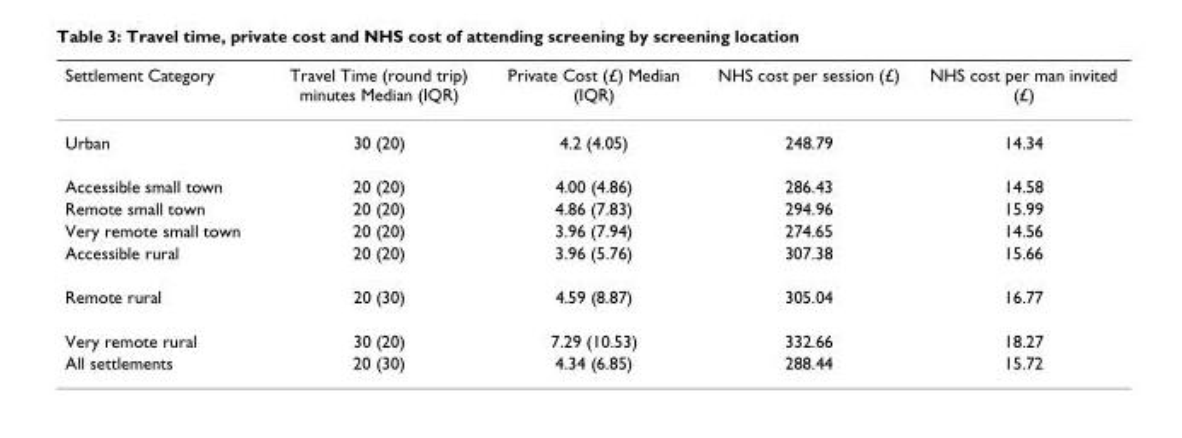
<table><thead><tr><td>Settlement Category</td><td>Travel Time (round trip) minutes Median (IQR)</td><td>Private Cost (£) Median (IQR)</td><td>NHS cost per session (£)</td><td>NHS cost per man invited (£)</td></tr></thead><tbody><tr><td>Urban</td><td>30 (20)</td><td>4.2 (4.05)</td><td>248.79</td><td>14.34</td></tr><tr><td>Accessible small town</td><td>20 (20)</td><td>4.00 (4.86)</td><td>286.43</td><td>14.58</td></tr><tr><td>Remote small town</td><td>20 (20)</td><td>4.86 (7.83)</td><td>294.96</td><td>15.99</td></tr><tr><td>Very remote small town</td><td>20 (20)</td><td>3.96 (7.94)</td><td>274.65</td><td>14.56</td></tr><tr><td>Accessible rural</td><td>20 (20)</td><td>3.96 (5.76)</td><td>307.38</td><td>15.66</td></tr><tr><td>Remote rural</td><td>20 (30)</td><td>4.59 (8.87)</td><td>305.04</td><td>16.77</td></tr><tr><td>Very remote rural</td><td>30 (20)</td><td>7.29 (10.53)</td><td>332.66</td><td>18.27</td></tr><tr><td>All settlements</td><td>20 (30)</td><td>4.34 (6.85)</td><td>288.44</td><td>15.72</td></tr></tbody></table>